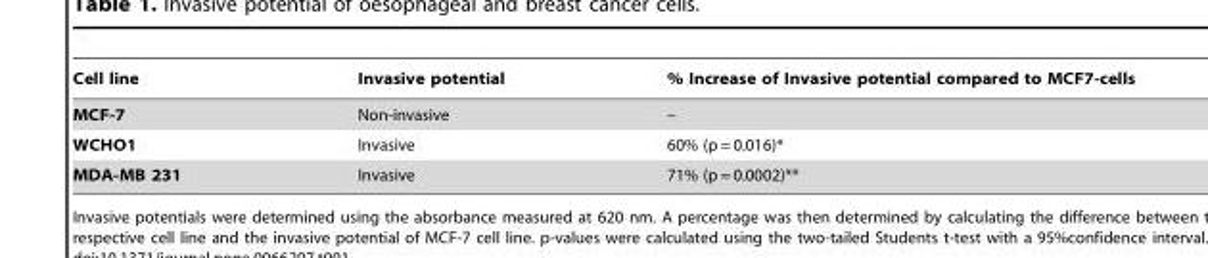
<table><thead><tr><td>Cell line</td><td>Invasive potential</td><td>% Increase of Invasive potential compared to MCF7-cells</td></tr></thead><tbody><tr><td>MCF-7</td><td>Non-invasive</td><td>–</td></tr><tr><td>WCHO1</td><td>Invasive</td><td>60% (p = 0.016)*</td></tr><tr><td>MDA-MB 231</td><td>Invasive</td><td>71% (p = 0.0002)**</td></tr></tbody></table>